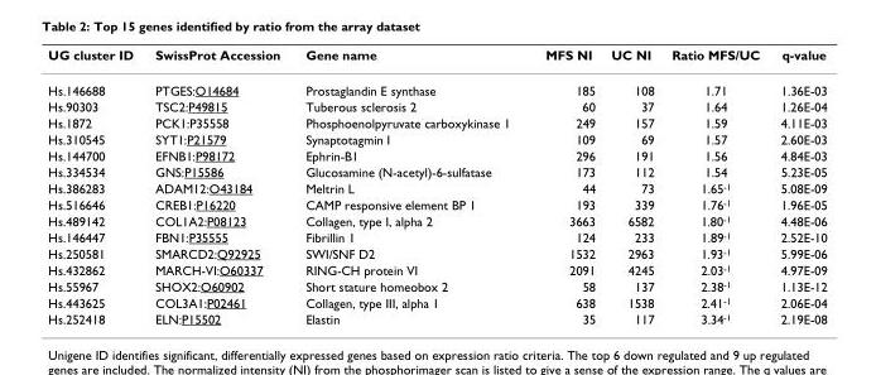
<table><thead><tr><td>UG cluster ID</td><td>SwissProt Accession</td><td>Gene name</td><td>MFS NI</td><td>UC NI</td><td>Ratio MFS/UC</td><td>q-value</td></tr></thead><tbody><tr><td>Hs.146688</td><td>PTGES:O14684</td><td>Prostaglandin E synthase</td><td>185</td><td>108</td><td>1.71</td><td>1.36E-03</td></tr><tr><td>Hs.90303</td><td>TSC2:P49815</td><td>Tuberous sclerosis 2</td><td>60</td><td>37</td><td>1.64</td><td>1.26E-04</td></tr><tr><td>Hs.1872</td><td>PCK1:P35558</td><td>Phosphoenolpyruvate carboxykinase 1</td><td>249</td><td>157</td><td>1.59</td><td>4.11E-03</td></tr><tr><td>Hs.310545</td><td>SYT1:P21579</td><td>Synaptotagmin I</td><td>109</td><td>69</td><td>1.57</td><td>2.60E-03</td></tr><tr><td>Hs.144700</td><td>EFNB1:P98172</td><td>Ephrin-B1</td><td>296</td><td>191</td><td>1.56</td><td>4.84E-03</td></tr><tr><td>Hs.334534</td><td>GNS:P15586</td><td>Glucosamine (N-acetyl)-6-sulfatase</td><td>173</td><td>112</td><td>1.54</td><td>5.23E-05</td></tr><tr><td>Hs.386283</td><td>ADAM12:O43184</td><td>Meltrin L</td><td>44</td><td>73</td><td>1.65<sup>-1</sup></td><td>5.08E-09</td></tr><tr><td>Hs.516646</td><td>CREB1:P16220</td><td>CAMP responsive element BP 1</td><td>193</td><td>339</td><td>1.76<sup>-1</sup></td><td>1.96E-05</td></tr><tr><td>Hs.489142</td><td>COL1A2:P08123</td><td>Collagen, type I, alpha 2</td><td>3663</td><td>6582</td><td>1.80<sup>-1</sup></td><td>4.48E-06</td></tr><tr><td>Hs.146447</td><td>FBN1:P35555</td><td>Fibrillin 1</td><td>124</td><td>233</td><td>1.89<sup>-1</sup></td><td>2.52E-10</td></tr><tr><td>Hs.250581</td><td>SMARCD2:Q92925</td><td>SWI/SNF D2</td><td>1532</td><td>2963</td><td>1.93<sup>-1</sup></td><td>5.99E-06</td></tr><tr><td>Hs.432862</td><td>MARCH-VI:O60337</td><td>RING-CH protein VI</td><td>2091</td><td>4245</td><td>2.03<sup>-1</sup></td><td>4.97E-09</td></tr><tr><td>Hs.55967</td><td>SHOX2:O60902</td><td>Short stature homeobox 2</td><td>58</td><td>137</td><td>2.38<sup>-1</sup></td><td>1.13E-12</td></tr><tr><td>Hs.443625</td><td>COL3A1:P02461</td><td>Collagen, type III, alpha 1</td><td>638</td><td>1538</td><td>2.41<sup>-1</sup></td><td>2.06E-04</td></tr><tr><td>Hs.252418</td><td>ELN:P15502</td><td>Elastin</td><td>35</td><td>117</td><td>3.34<sup>-1</sup></td><td>2.19E-08</td></tr></tbody></table>